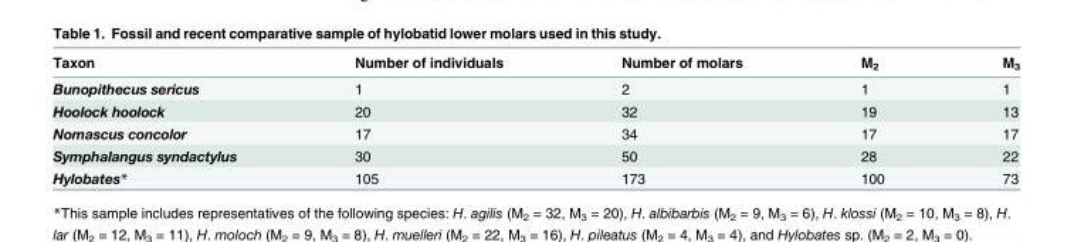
<table><thead><tr><td>Taxon</td><td>Number of individuals</td><td>Number of molars</td><td>M<sub>2</sub></td><td>M<sub>3</sub></td></tr></thead><tbody><tr><td>Bunopithecus sericus</td><td>1</td><td>2</td><td>1</td><td>1</td></tr><tr><td>Hoolock hoolock</td><td>20</td><td>32</td><td>19</td><td>13</td></tr><tr><td>Nomascus concolor</td><td>17</td><td>34</td><td>17</td><td>17</td></tr><tr><td>Symphalangus syndactylus</td><td>30</td><td>50</td><td>28</td><td>22</td></tr><tr><td>Hylobates*</td><td>105</td><td>173</td><td>100</td><td>73</td></tr></tbody></table>